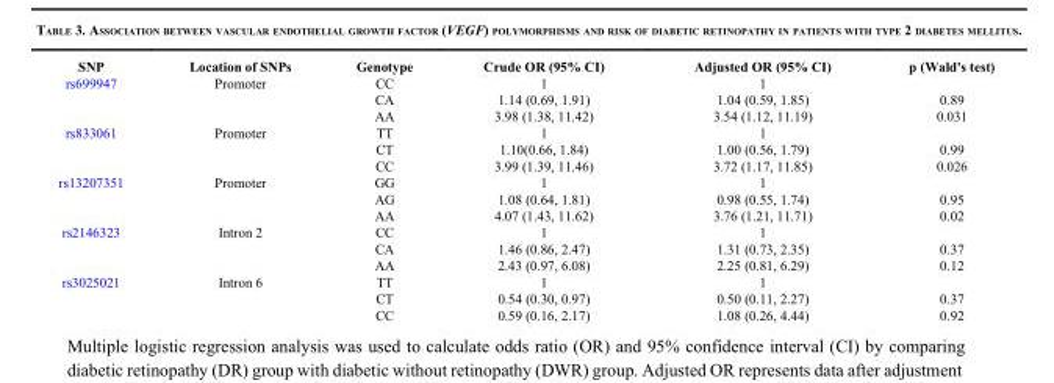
<table><thead><tr><td>SNP</td><td>Location of SNPs</td><td>Genotype</td><td>Crude OR (95% CI)</td><td>Adjusted OR (95% CI)</td><td>p (Wald&#x27;s test)</td></tr></thead><tbody><tr><td rowspan="3">rs699947</td><td>Promoter</td><td>CC</td><td>1</td><td>1</td><td></td></tr><tr><td></td><td>CA</td><td>1.14 (0.69, 1.91)</td><td>1.04 (0.59, 1.85)</td><td>0.89</td></tr><tr><td></td><td>AA</td><td>3.98 (1.38, 11.42)</td><td>3.54 (1.12, 11.19)</td><td>0.031</td></tr><tr><td rowspan="3">rs833061</td><td>Promoter</td><td>TT</td><td>1</td><td>1</td><td></td></tr><tr><td></td><td>CT</td><td>1.10(0.66, 1.84)</td><td>1.00 (0.56, 1.79)</td><td>0.99</td></tr><tr><td></td><td>CC</td><td>3.99 (1.39, 11.46)</td><td>3.72 (1.17, 11.85)</td><td>0.026</td></tr><tr><td rowspan="3">rs13207351</td><td>Promoter</td><td>GG</td><td>1</td><td>1</td><td></td></tr><tr><td></td><td>AG</td><td>1.08 (0.64, 1.81)</td><td>0.98 (0.55, 1.74)</td><td>0.95</td></tr><tr><td></td><td>AA</td><td>4.07 (1.43, 11.62)</td><td>3.76 (1.21, 11.71)</td><td>0.02</td></tr><tr><td rowspan="3">rs2146323</td><td>Intron 2</td><td>CC</td><td>1</td><td>1</td><td></td></tr><tr><td></td><td>CA</td><td>1.46 (0.86, 2.47)</td><td>1.31 (0.73, 2.35)</td><td>0.37</td></tr><tr><td></td><td>AA</td><td>2.43 (0.97, 6.08)</td><td>2.25 (0.81, 6.29)</td><td>0.12</td></tr><tr><td rowspan="3">rs3025021</td><td>Intron 6</td><td>TT</td><td>1</td><td>1</td><td></td></tr><tr><td></td><td>CT</td><td>0.54 (0.30, 0.97)</td><td>0.50 (0.11, 2.27)</td><td>0.37</td></tr><tr><td></td><td>CC</td><td>0.59 (0.16, 2.17)</td><td>1.08 (0.26, 4.44)</td><td>0.92</td></tr></tbody></table>